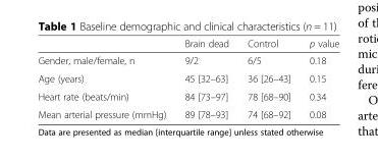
<table><thead><tr><td></td><td>Brain dead</td><td>Control</td><td>p value</td></tr></thead><tbody><tr><td>Gender, male/female, n</td><td>9/2</td><td>6/5</td><td>0.18</td></tr><tr><td>Age (years)</td><td>45 [32–63]</td><td>36 [26–43]</td><td>0.15</td></tr><tr><td>Heart rate (beats/min)</td><td>84 [73–97]</td><td>78 [68–90]</td><td>0.34</td></tr><tr><td>Mean arterial pressure (mmHg)</td><td>89 [78–93]</td><td>74 [68–92]</td><td>0.08</td></tr></tbody></table>